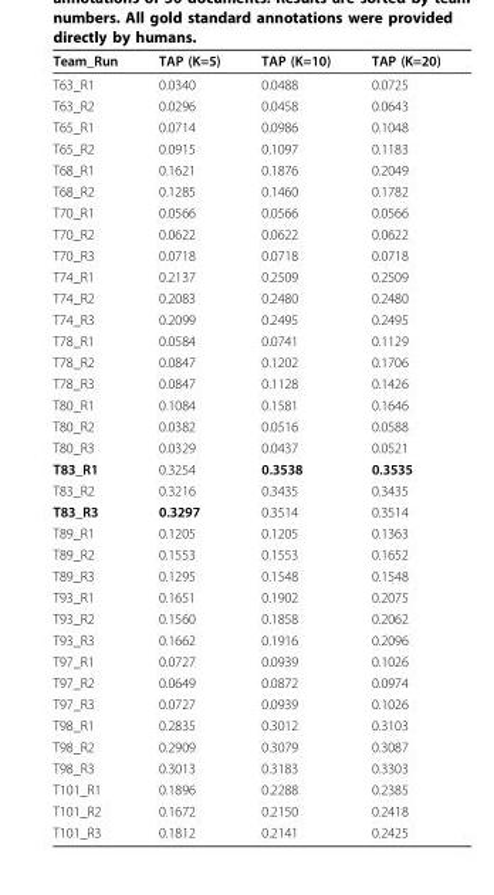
<table><thead><tr><td>Team_Run</td><td>TAP (K=5)</td><td>TAP (K=10)</td><td>TAP (K=20)</td></tr></thead><tbody><tr><td>T63_R1</td><td>0.0340</td><td>0.0488</td><td>0.0725</td></tr><tr><td>T63_R2</td><td>0.0296</td><td>0.0458</td><td>0.0643</td></tr><tr><td>T65_R1</td><td>0.0714</td><td>0.0986</td><td>0.1048</td></tr><tr><td>T65_R2</td><td>0.0915</td><td>0.1097</td><td>0.1183</td></tr><tr><td>T68_R1</td><td>0.1621</td><td>0.1876</td><td>0.2049</td></tr><tr><td>T68_R2</td><td>0.1285</td><td>0.1460</td><td>0.1782</td></tr><tr><td>T70_R1</td><td>0.0566</td><td>0.0566</td><td>0.0566</td></tr><tr><td>T70_R2</td><td>0.0622</td><td>0.0622</td><td>0.0622</td></tr><tr><td>T70_R3</td><td>0.0718</td><td>0.0718</td><td>0.0718</td></tr><tr><td>T74_R1</td><td>0.2137</td><td>0.2509</td><td>0.2509</td></tr><tr><td>T74_R2</td><td>0.2083</td><td>0.2480</td><td>0.2480</td></tr><tr><td>T74_R3</td><td>0.2099</td><td>0.2495</td><td>0.2495</td></tr><tr><td>T78_R1</td><td>0.0584</td><td>0.0741</td><td>0.1129</td></tr><tr><td>T78_R2</td><td>0.0847</td><td>0.1202</td><td>0.1706</td></tr><tr><td>T78_R3</td><td>0.0847</td><td>0.1128</td><td>0.1426</td></tr><tr><td>T80_R1</td><td>0.1084</td><td>0.1581</td><td>0.1646</td></tr><tr><td>T80_R2</td><td>0.0382</td><td>0.0516</td><td>0.0588</td></tr><tr><td>T80_R3</td><td>0.0329</td><td>0.0437</td><td>0.0521</td></tr><tr><td>T83_R1</td><td>0.3254</td><td>0.3538</td><td>0.3535</td></tr><tr><td>T83_R2</td><td>0.3216</td><td>0.3435</td><td>0.3435</td></tr><tr><td>T83_R3</td><td>0.3297</td><td>0.3514</td><td>0.3514</td></tr><tr><td>T89_R1</td><td>0.1205</td><td>0.1205</td><td>0.1363</td></tr><tr><td>T89_R2</td><td>0.1553</td><td>0.1553</td><td>0.1652</td></tr><tr><td>T89_R3</td><td>0.1295</td><td>0.1548</td><td>0.1548</td></tr><tr><td>T93_R1</td><td>0.1651</td><td>0.1902</td><td>0.2075</td></tr><tr><td>T93_R2</td><td>0.1560</td><td>0.1858</td><td>0.2062</td></tr><tr><td>T93_R3</td><td>0.1662</td><td>0.1916</td><td>0.2096</td></tr><tr><td>T97_R1</td><td>0.0727</td><td>0.0939</td><td>0.1026</td></tr><tr><td>T97_R2</td><td>0.0649</td><td>0.0872</td><td>0.0974</td></tr><tr><td>T97_R3</td><td>0.0727</td><td>0.0939</td><td>0.1026</td></tr><tr><td>T98_R1</td><td>0.2835</td><td>0.3012</td><td>0.3103</td></tr><tr><td>T98_R2</td><td>0.2909</td><td>0.3079</td><td>0.3087</td></tr><tr><td>T98_R3</td><td>0.3013</td><td>0.3183</td><td>0.3303</td></tr><tr><td>T101_R1</td><td>0.1896</td><td>0.2288</td><td>0.2385</td></tr><tr><td>T101_R2</td><td>0.1672</td><td>0.2150</td><td>0.2418</td></tr><tr><td>T101_R3</td><td>0.1812</td><td>0.2141</td><td>0.2425</td></tr></tbody></table>